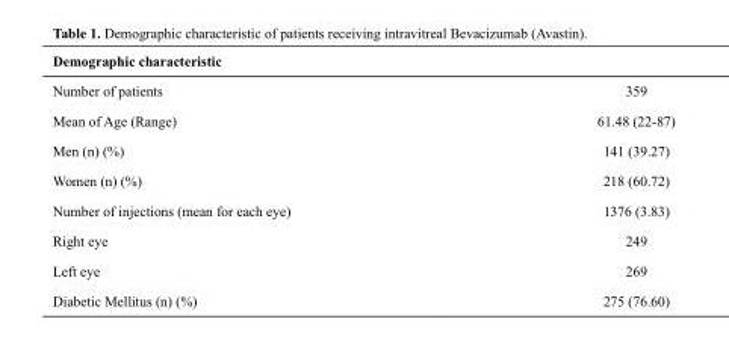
<table><thead><tr><td colspan="2">Demographic characteristic</td></tr><tr><td>Number of patients</td><td>359</td></tr></thead><tbody><tr><td>Mean of Age (Range)</td><td>61.48 (22-87)</td></tr><tr><td>Men (n) (%)</td><td>141 (39.27)</td></tr><tr><td>Women (n) (%)</td><td>218 (60.72)</td></tr><tr><td>Number of injections (mean for each eye)</td><td>1376 (3.83)</td></tr><tr><td>Right eye</td><td>249</td></tr><tr><td>Left eye</td><td>269</td></tr><tr><td>Diabetic Mellitus (n) (%)</td><td>275 (76.60)</td></tr></tbody></table>